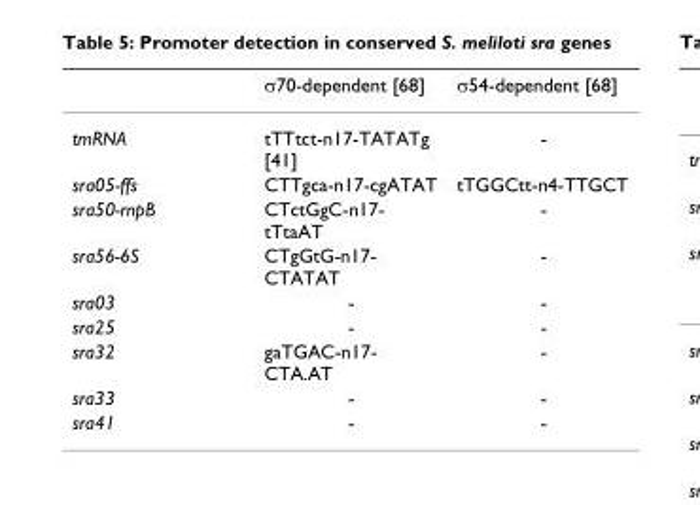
<table><thead><tr><td></td><td>σ70-dependent [68]</td><td>σ54-dependent [68]</td></tr></thead><tbody><tr><td>tmRNA</td><td>tTTtct-n17-TATATg [41]</td><td>-</td></tr><tr><td>sra05-ffs</td><td>CTTgca-n17-cgATAT</td><td>tTGGCtt-n4-TTGCT</td></tr><tr><td>sra50-rnpB</td><td>CTctGgC-n17- tTtaAT</td><td>-</td></tr><tr><td>sra56-6S</td><td>CTgGtG-n17- CTATAT</td><td>-</td></tr><tr><td>sra03</td><td>-</td><td>-</td></tr><tr><td>sra25</td><td>-</td><td>-</td></tr><tr><td>sra32</td><td>gaTGAC-n17- CTA.AT</td><td>-</td></tr><tr><td>sra33</td><td>-</td><td>-</td></tr><tr><td>sra41</td><td>-</td><td>-</td></tr></tbody></table>